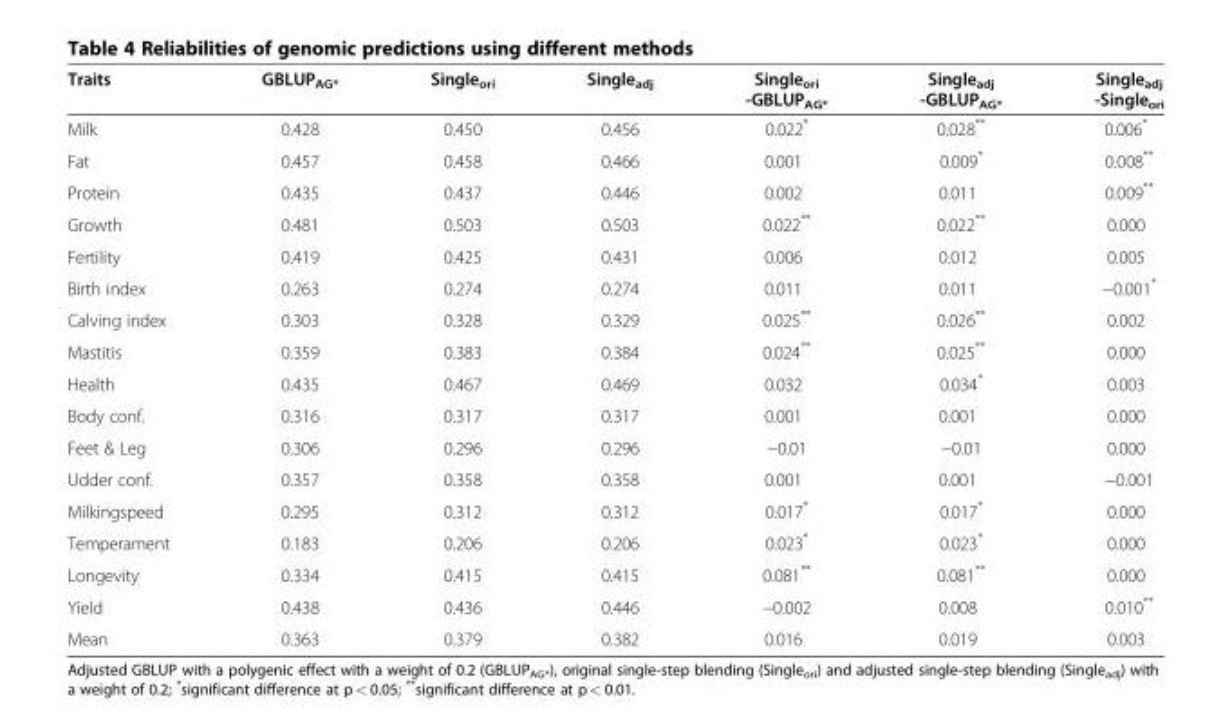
<table><thead><tr><td>Traits</td><td>GBLUP<sub>AG*</sub></td><td>Single<sub>ori</sub></td><td>Single<sub>adj</sub></td><td>Single<sub>ori</sub> -GBLUP<sub>AG*</sub></td><td>Single<sub>adj</sub> -GBLUP<sub>AG*</sub></td><td>Single<sub>adj</sub> -Single<sub>ori</sub></td></tr></thead><tbody><tr><td>Milk</td><td>0.428</td><td>0.450</td><td>0.456</td><td>0.022*</td><td>0.028**</td><td>0.006*</td></tr><tr><td>Fat</td><td>0.457</td><td>0.458</td><td>0.466</td><td>0.001</td><td>0.009*</td><td>0.008**</td></tr><tr><td>Protein</td><td>0.435</td><td>0.437</td><td>0.446</td><td>0.002</td><td>0.011</td><td>0.009**</td></tr><tr><td>Growth</td><td>0.481</td><td>0.503</td><td>0.503</td><td>0.022**</td><td>0.022**</td><td>0.000</td></tr><tr><td>Fertility</td><td>0.419</td><td>0.425</td><td>0.431</td><td>0.006</td><td>0.012</td><td>0.005</td></tr><tr><td>Birth index</td><td>0.263</td><td>0.274</td><td>0.274</td><td>0.011</td><td>0.011</td><td>−0.001*</td></tr><tr><td>Calving index</td><td>0.303</td><td>0.328</td><td>0.329</td><td>0.025**</td><td>0.026**</td><td>0.002</td></tr><tr><td>Mastitis</td><td>0.359</td><td>0.383</td><td>0.384</td><td>0.024**</td><td>0.025**</td><td>0.000</td></tr><tr><td>Health</td><td>0.435</td><td>0.467</td><td>0.469</td><td>0.032</td><td>0.034*</td><td>0.003</td></tr><tr><td>Body conf.</td><td>0.316</td><td>0.317</td><td>0.317</td><td>0.001</td><td>0.001</td><td>0.000</td></tr><tr><td>Feet &amp; Leg</td><td>0.306</td><td>0.296</td><td>0.296</td><td>−0.01</td><td>−0.01</td><td>0.000</td></tr><tr><td>Udder conf.</td><td>0.357</td><td>0.358</td><td>0.358</td><td>0.001</td><td>0.001</td><td>−0.001</td></tr><tr><td>Milkingspeed</td><td>0.295</td><td>0.312</td><td>0.312</td><td>0.017*</td><td>0.017*</td><td>0.000</td></tr><tr><td>Temperament</td><td>0.183</td><td>0.206</td><td>0.206</td><td>0.023*</td><td>0.023*</td><td>0.000</td></tr><tr><td>Longevity</td><td>0.334</td><td>0.415</td><td>0.415</td><td>0.081**</td><td>0.081**</td><td>0.000</td></tr><tr><td>Yield</td><td>0.438</td><td>0.436</td><td>0.446</td><td>−0.002</td><td>0.008</td><td>0.010**</td></tr><tr><td>Mean</td><td>0.363</td><td>0.379</td><td>0.382</td><td>0.016</td><td>0.019</td><td>0.003</td></tr></tbody></table>